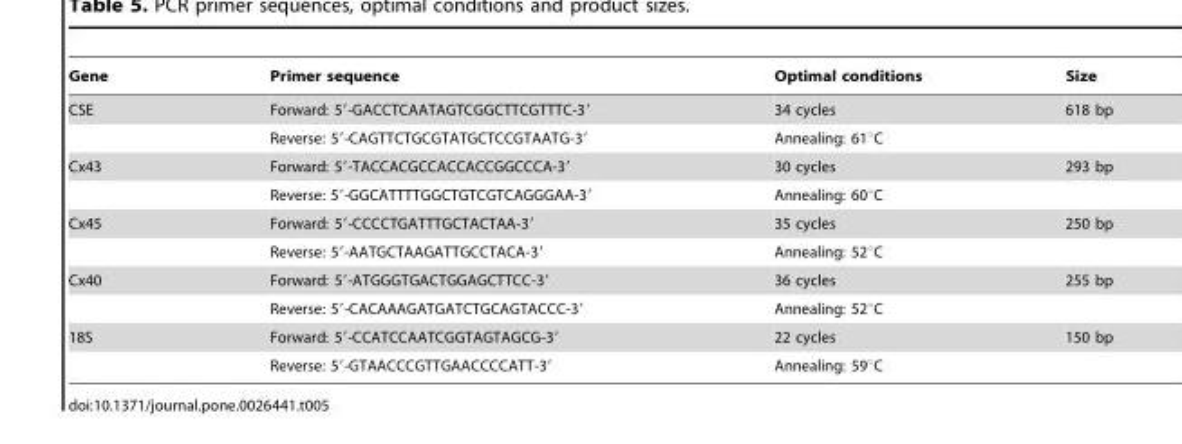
<table><thead><tr><td>Gene</td><td>Primer sequence</td><td>Optimal conditions</td><td>Size</td></tr></thead><tbody><tr><td rowspan="2">CSE</td><td>Forward: 5′-GACCTCAATAGTCGGCTTCGTTTC-3′</td><td>34 cycles</td><td>618 bp</td></tr><tr><td>Reverse: 5′-CAGTTCTGCGTATGCTCCGTAATG-3′</td><td>Annealing: 61°C</td><td></td></tr><tr><td rowspan="2">Cx43</td><td>Forward: 5′-TACCACGCCACCACCGGCCCA-3′</td><td>30 cycles</td><td>293 bp</td></tr><tr><td>Reverse: 5′-GGCATTTTGGCTGTCGTCAGGGAA-3′</td><td>Annealing: 60°C</td><td></td></tr><tr><td rowspan="2">Cx45</td><td>Forward: 5′-CCCCTGATTTGCTACTAA-3′</td><td>35 cycles</td><td>250 bp</td></tr><tr><td>Reverse: 5′-AATGCTAAGATTGCCTACA-3′</td><td>Annealing: 52°C</td><td></td></tr><tr><td rowspan="2">Cx40</td><td>Forward: 5′-ATGGGTGACTGGAGCTTCC-3′</td><td>36 cycles</td><td>255 bp</td></tr><tr><td>Reverse: 5′-CACAAAGATGATCTGCAGTACCC-3′</td><td>Annealing: 52°C</td><td></td></tr><tr><td rowspan="2">18S</td><td>Forward: 5′-CCATCCAATCGGTAGTAGCG-3′</td><td>22 cycles</td><td>150 bp</td></tr><tr><td>Reverse: 5′-GTAACCCGTTGAACCCCATT-3′</td><td>Annealing: 59°C</td><td></td></tr></tbody></table>